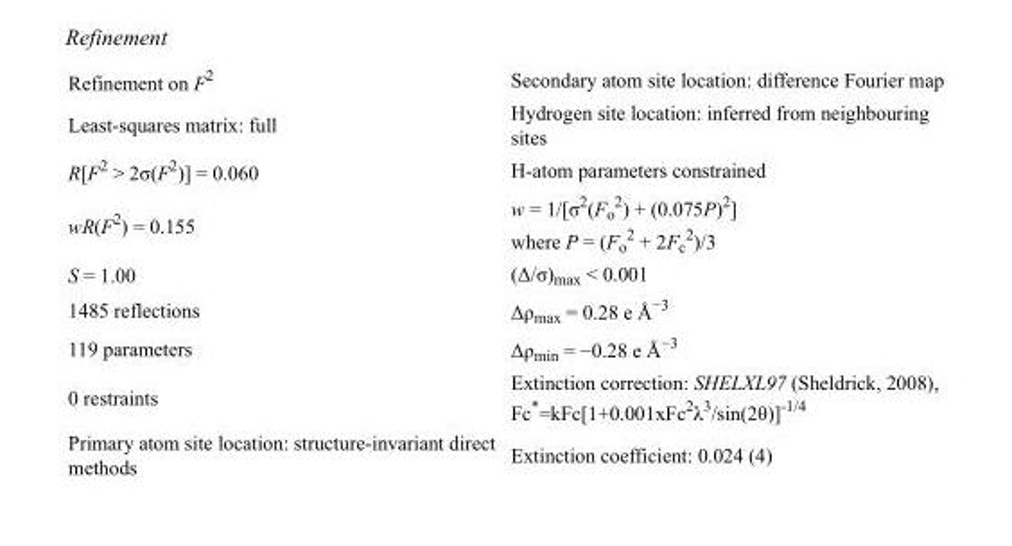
<table><tbody><tr><td>Refinement on F<sup>2</sup></td><td>Secondary atom site location: difference Fourier map</td></tr><tr><td>Least-squares matrix: full</td><td>Hydrogen site location: inferred from neighbouring sites</td></tr><tr><td>R[F<sup>2</sup> &gt; 2σ(F<sup>2</sup>)] = 0.060</td><td>H-atom parameters constrained</td></tr><tr><td>wR(F<sup>2</sup>) = 0.155</td><td>w = 1/[σ<sup>2</sup>(F<sub>o</sub> <sup>2</sup>) + (0.075P)<sup>2</sup>] where P = (F<sub>o</sub> <sup>2</sup> + 2F<sub>c</sub> <sup>2</sup>)/3</td></tr><tr><td>S = 1.00</td><td>(Δ/σ)<sub>max</sub> &lt; 0.001</td></tr><tr><td>1485 reflections</td><td>Δρ<sub>max</sub> = 0.28 e Å<sup>−3</sup></td></tr><tr><td>119 parameters</td><td>Δρ<sub>min</sub> = −0.28 e Å<sup>−3</sup></td></tr><tr><td>0 restraints</td><td>Extinction correction: SHELXL97 (Sheldrick, 2008), Fc*=kFc[1+0.001xFc<sup>2</sup>λ<sup>3</sup>/sin(2θ)]<sup>-1/4</sup></td></tr><tr><td>Primary atom site location: structure-invariant direct methods</td><td>Extinction coefficient: 0.024 (4)</td></tr></tbody></table>